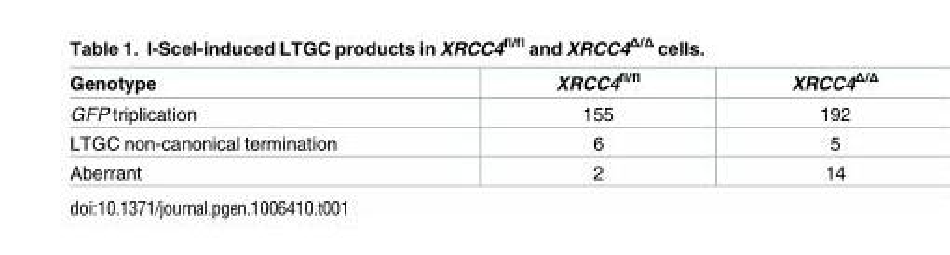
<table><thead><tr><td>Genotype</td><td>XRCC4<sup>fl/fl</sup></td><td>XRCC4<sup>Δ/Δ</sup></td></tr></thead><tbody><tr><td>GFP triplication</td><td>155</td><td>192</td></tr><tr><td>LTGC non-canonical termination</td><td>6</td><td>5</td></tr><tr><td>Aberrant</td><td>2</td><td>14</td></tr></tbody></table>